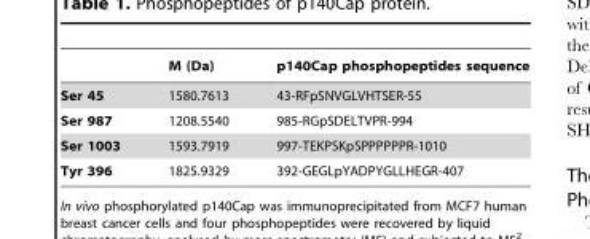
<table><thead><tr><td></td><td>M (Da)</td><td>p140Cap phosphopeptides sequence</td></tr></thead><tbody><tr><td>Ser 45</td><td>1580.7613</td><td>43-RFpSNVGLVHTSER-55</td></tr><tr><td>Ser 987</td><td>1208.5540</td><td>985-RGpSDELTVPR-994</td></tr><tr><td>Ser 1003</td><td>1593.7919</td><td>997-TEKPSKpSPPPPPPR-1010</td></tr><tr><td>Tyr 396</td><td>1825.9329</td><td>392-GEGLpYADPYGLLHEGR-407</td></tr></tbody></table>